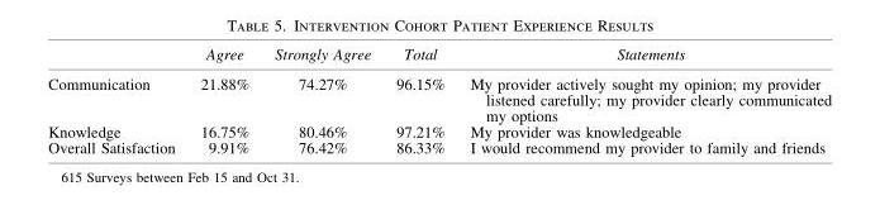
<table><thead><tr><td></td><td>Agree</td><td>Strongly Agree</td><td>Total</td><td>Statements</td></tr></thead><tbody><tr><td>Communication</td><td>21.88%</td><td>74.27%</td><td>96.15%</td><td>My provider actively sought my opinion; my provider listened carefully; my provider clearly communicated my options</td></tr><tr><td>Knowledge</td><td>16.75%</td><td>80.46%</td><td>97.21%</td><td>My provider was knowledgeable</td></tr><tr><td>Overall Satisfaction</td><td>9.91%</td><td>76.42%</td><td>86.33%</td><td>I would recommend my provider to family and friends</td></tr></tbody></table>